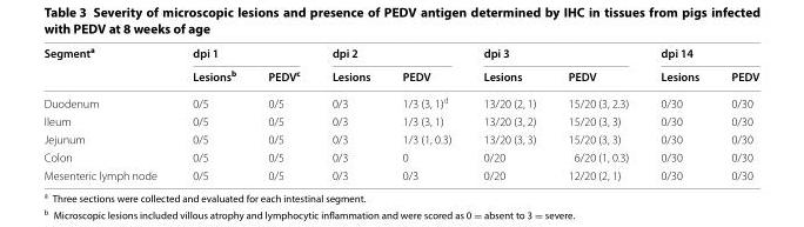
<table><thead><tr><td rowspan="2">Segment<sup>a</sup></td><td colspan="2">dpi 1</td><td colspan="2">dpi 2</td><td colspan="2">dpi 3</td><td colspan="2">dpi 14</td></tr><tr><td>Lesions<sup>b</sup></td><td>PEDV<sup>c</sup></td><td>Lesions</td><td>PEDV</td><td>Lesions</td><td>PEDV</td><td>Lesions</td><td>PEDV</td></tr></thead><tbody><tr><td>Duodenum</td><td>0/5</td><td>0/5</td><td>0/3</td><td>1/3 (3, 1)<sup>d</sup></td><td>13/20 (2, 1)</td><td>15/20 (3, 2.3)</td><td>0/30</td><td>0/30</td></tr><tr><td>Ileum</td><td>0/5</td><td>0/5</td><td>0/3</td><td>1/3 (3, 1)</td><td>13/20 (3, 2)</td><td>15/20 (3, 3)</td><td>0/30</td><td>0/30</td></tr><tr><td>Jejunum</td><td>0/5</td><td>0/5</td><td>0/3</td><td>1/3 (1, 0.3)</td><td>13/20 (3, 3)</td><td>15/20 (3, 3)</td><td>0/30</td><td>0/30</td></tr><tr><td>Colon</td><td>0/5</td><td>0/5</td><td>0/3</td><td>0</td><td>0/20</td><td>6/20 (1, 0.3)</td><td>0/30</td><td>0/30</td></tr><tr><td>Mesenteric lymph node</td><td>0/5</td><td>0/5</td><td>0/3</td><td>0/3</td><td>0/20</td><td>12/20 (2, 1)</td><td>0/30</td><td>0/30</td></tr></tbody></table>